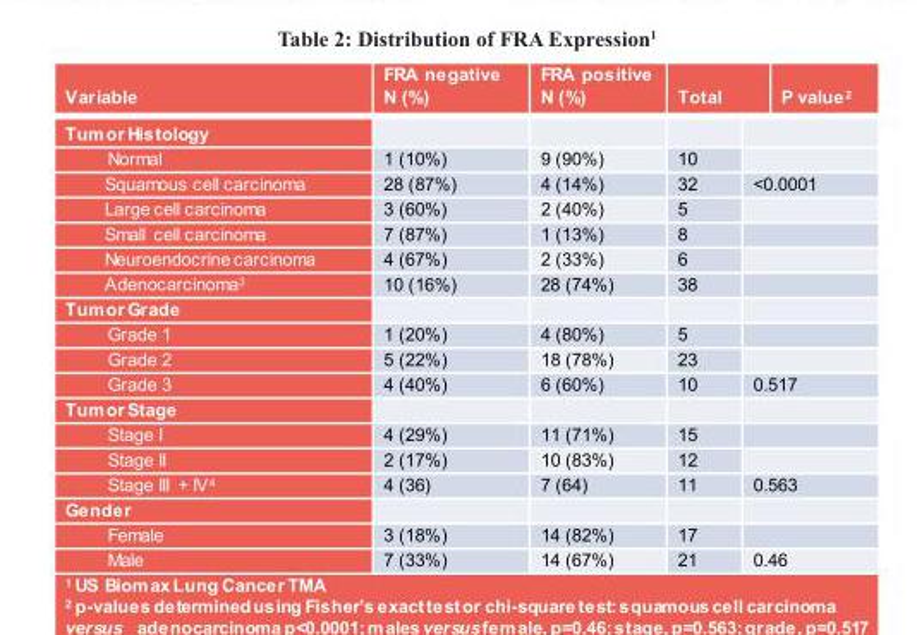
<table><thead><tr><td>Variable</td><td>FRA negative N (%)</td><td>FRA positive N (%)</td><td>Total</td><td>P value<sup>2</sup></td></tr></thead><tbody><tr><td colspan="5">Tumor Histology</td></tr><tr><td>Normal</td><td>1 (10%)</td><td>9 (90%)</td><td>10</td><td></td></tr><tr><td>Squamous cell carcinoma</td><td>28 (87%)</td><td>4 (14%)</td><td>32</td><td>&lt;0.0001</td></tr><tr><td>Large cell carcinoma</td><td>3 (60%)</td><td>2 (40%)</td><td>5</td><td></td></tr><tr><td>Small cell carcinoma</td><td>7 (87%)</td><td>1 (13%)</td><td>8</td><td></td></tr><tr><td>Neuroendocrine carcinoma</td><td>4 (67%)</td><td>2 (33%)</td><td>6</td><td></td></tr><tr><td>Adenocarcinoma<sup>3</sup></td><td>10 (16%)</td><td>28 (74%)</td><td>38</td><td></td></tr><tr><td colspan="5">Tumor Grade</td></tr><tr><td>Grade 1</td><td>1 (20%)</td><td>4 (80%)</td><td>5</td><td></td></tr><tr><td>Grade 2</td><td>5 (22%)</td><td>18 (78%)</td><td>23</td><td></td></tr><tr><td>Grade 3</td><td>4 (40%)</td><td>6 (60%)</td><td>10</td><td>0.517</td></tr><tr><td colspan="5">Tumor Stage</td></tr><tr><td>Stage I</td><td>4 (29%)</td><td>11 (71%)</td><td>15</td><td></td></tr><tr><td>Stage II</td><td>2 (17%)</td><td>10 (83%)</td><td>12</td><td></td></tr><tr><td>Stage III + IV<sup>4</sup></td><td>4 (36)</td><td>7 (64)</td><td>11</td><td>0.563</td></tr><tr><td colspan="5">Gender</td></tr><tr><td>Female</td><td>3 (18%)</td><td>14 (82%)</td><td>17</td><td></td></tr><tr><td>Male</td><td>7 (33%)</td><td>14 (67%)</td><td>21</td><td>0.46</td></tr></tbody></table>